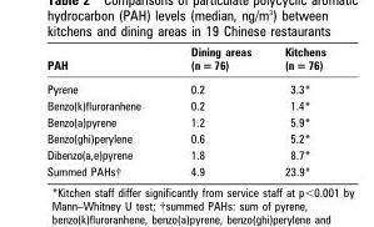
<table><thead><tr><td>PAH</td><td>Dining areas (n = 76)</td><td>Kitchens (n = 76)</td></tr></thead><tbody><tr><td>Pyrene</td><td>0.2</td><td>3.3*</td></tr><tr><td>Benzo(k)fluroranhene</td><td>0.2</td><td>1.4*</td></tr><tr><td>Benzo(a)pyrene</td><td>1.2</td><td>5.9*</td></tr><tr><td>Benzo(ghi)perylene</td><td>0.6</td><td>5.2*</td></tr><tr><td>Dibenzo(a,e)pyrene</td><td>1.8</td><td>8.7*</td></tr><tr><td>Summed PAHs†</td><td>4.9</td><td>23.9*</td></tr></tbody></table>